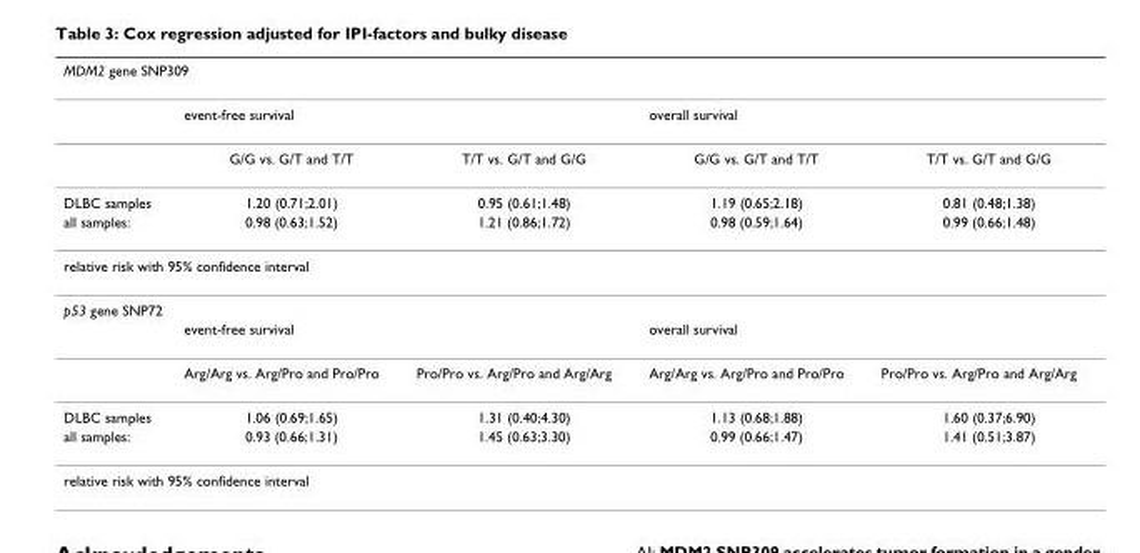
<table><thead><tr><td colspan="5">MDM2 gene SNP309</td></tr><tr><td rowspan="2"></td><td colspan="2">event-free survival</td><td colspan="2">overall survival</td></tr><tr><td>G/G vs. G/T and T/T</td><td>T/T vs. G/T and G/G</td><td>G/G vs. G/T and T/T</td><td>T/T vs. G/T and G/G</td></tr></thead><tbody><tr><td>DLBC samples</td><td>1.20 (0.71;2.01)</td><td>0.95 (0.61;1.48)</td><td>1.19 (0.65;2.18)</td><td>0.81 (0.48;1.38)</td></tr><tr><td>all samples:</td><td>0.98 (0.63;1.52)</td><td>1.21 (0.86;1.72)</td><td>0.98 (0.59;1.64)</td><td>0.99 (0.66;1.48)</td></tr><tr><td colspan="5">relative risk with 95% confidence interval</td></tr><tr><td colspan="5">p53 gene SNP72</td></tr><tr><td></td><td colspan="2">event-free survival</td><td colspan="2">overall survival</td></tr><tr><td></td><td>Arg/Arg vs. Arg/Pro and Pro/Pro</td><td>Pro/Pro vs. Arg/Pro and Arg/Arg</td><td>Arg/Arg vs. Arg/Pro and Pro/Pro</td><td>Pro/Pro vs. Arg/Pro and Arg/Arg</td></tr><tr><td>DLBC samples</td><td>1.06 (0.69;1.65)</td><td>1.31 (0.40;4.30)</td><td>1.13 (0.68;1.88)</td><td>1.60 (0.37;6.90)</td></tr><tr><td>all samples:</td><td>0.93 (0.66;1.31)</td><td>1.45 (0.63;3.30)</td><td>0.99 (0.66;1.47)</td><td>1.41 (0.51;3.87)</td></tr><tr><td colspan="5">relative risk with 95% confidence interval</td></tr></tbody></table>